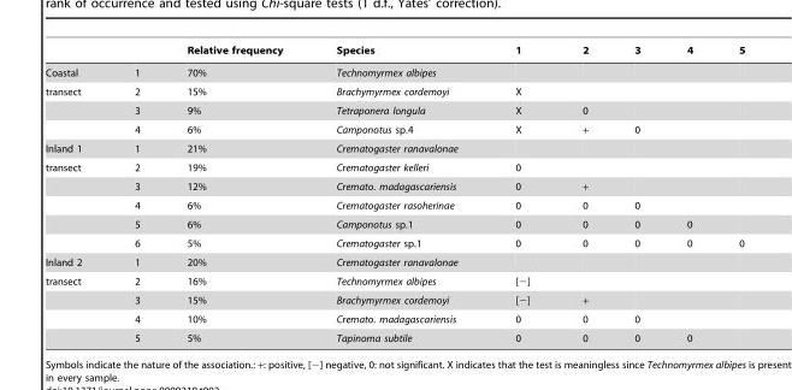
<table><thead><tr><td></td><td></td><td>Relative frequency</td><td>Species</td><td>1</td><td>2</td><td>3</td><td>4</td><td>5</td></tr></thead><tbody><tr><td>Coastal</td><td>1</td><td>70%</td><td>Technomyrmex albipes</td><td></td><td></td><td></td><td></td><td></td></tr><tr><td rowspan="3">transect</td><td>2</td><td>15%</td><td>Brachymyrmex cordemoyi</td><td>X</td><td></td><td></td><td></td><td></td></tr><tr><td>3</td><td>9%</td><td>Tetraponera longula</td><td>X</td><td>0</td><td></td><td></td><td></td></tr><tr><td>4</td><td>6%</td><td>Camponotus sp.4</td><td>X</td><td>+</td><td>0</td><td></td><td></td></tr><tr><td>Inland 1</td><td>1</td><td>21%</td><td>Crematogaster ranavalonae</td><td></td><td></td><td></td><td></td><td></td></tr><tr><td rowspan="5">transect</td><td>2</td><td>19%</td><td>Crematogaster kelleri</td><td>0</td><td></td><td></td><td></td><td></td></tr><tr><td>3</td><td>12%</td><td>Cremato. madagascariensis</td><td>0</td><td>+</td><td></td><td></td><td></td></tr><tr><td>4</td><td>6%</td><td>Crematogaster rasoherinae</td><td>0</td><td>0</td><td>0</td><td></td><td></td></tr><tr><td>5</td><td>6%</td><td>Camponotus sp.1</td><td>0</td><td>0</td><td>0</td><td>0</td><td></td></tr><tr><td>6</td><td>5%</td><td>Crematogaster sp.1</td><td>0</td><td>0</td><td>0</td><td>0</td><td>0</td></tr><tr><td>Inland 2</td><td>1</td><td>20%</td><td>Crematogaster ranavalonae</td><td></td><td></td><td></td><td></td><td></td></tr><tr><td rowspan="4">transect</td><td>2</td><td>16%</td><td>Technomyrmex albipes</td><td>[−]</td><td></td><td></td><td></td><td></td></tr><tr><td>3</td><td>15%</td><td>Brachymyrmex cordemoyi</td><td>[−]</td><td>+</td><td></td><td></td><td></td></tr><tr><td>4</td><td>10%</td><td>Cremato. madagascariensis</td><td>0</td><td>0</td><td>0</td><td></td><td></td></tr><tr><td>5</td><td>5%</td><td>Tapinoma subtile</td><td>0</td><td>0</td><td>0</td><td>0</td><td></td></tr></tbody></table>